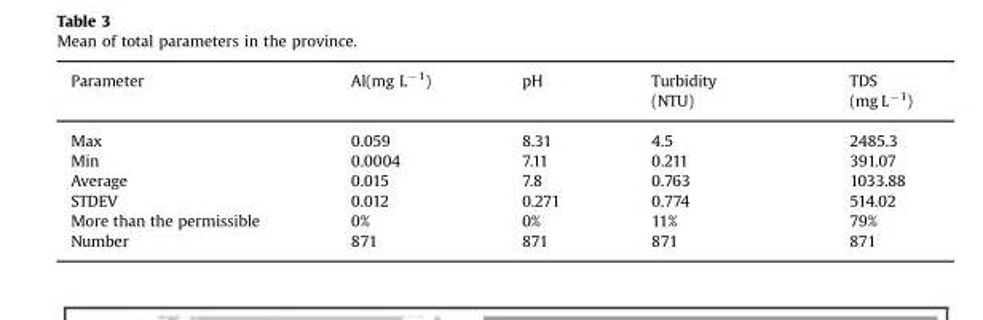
<table><thead><tr><td>Parameter</td><td>Al(mg L<sup>−1</sup>)</td><td>pH</td><td>Turbidity (NTU)</td><td>TDS (mg L<sup>−1</sup>)</td></tr></thead><tbody><tr><td>Max</td><td>0.059</td><td>8.31</td><td>4.5</td><td>2485.3</td></tr><tr><td>Min</td><td>0.0004</td><td>7.11</td><td>0.211</td><td>391.07</td></tr><tr><td>Average</td><td>0.015</td><td>7.8</td><td>0.763</td><td>1033.88</td></tr><tr><td>STDEV</td><td>0.012</td><td>0.271</td><td>0.774</td><td>514.02</td></tr><tr><td>More than the permissible</td><td>0%</td><td>0%</td><td>11%</td><td>79%</td></tr><tr><td>Number</td><td>871</td><td>871</td><td>871</td><td>871</td></tr></tbody></table>